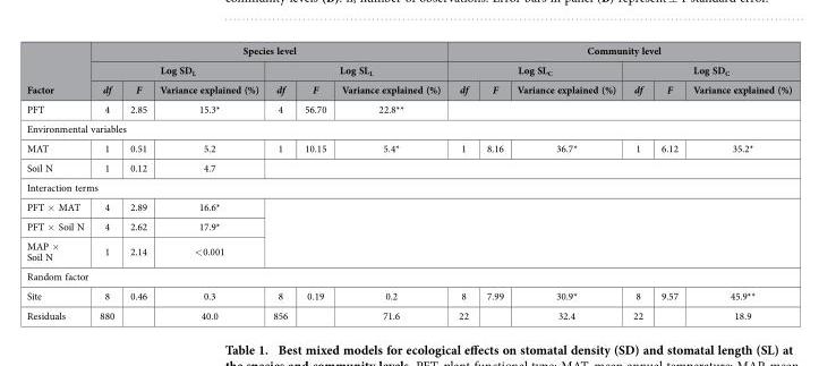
<table><thead><tr><td rowspan="3">Factor</td><td colspan="6">Species level</td><td colspan="6">Community level</td></tr><tr><td colspan="3">Log SD<sub>L</sub></td><td colspan="3">Log SL<sub>L</sub></td><td colspan="3">Log SL<sub>C</sub></td><td colspan="3">Log SD<sub>C</sub></td></tr><tr><td>df</td><td>F</td><td>Variance explained (%)</td><td>df</td><td>F</td><td>Variance explained (%)</td><td>df</td><td>F</td><td>Variance explained (%)</td><td>df</td><td>F</td><td>Variance explained (%)</td></tr></thead><tbody><tr><td>PFT</td><td>4</td><td>2.85</td><td>15.3*</td><td>4</td><td>56.70</td><td>22.8**</td><td colspan="6"></td></tr><tr><td colspan="13">Environmental variables</td></tr><tr><td>MAT</td><td>1</td><td>0.51</td><td>5.2</td><td>1</td><td>10.15</td><td>5.4*</td><td>1</td><td>8.16</td><td>36.7*</td><td>1</td><td>6.12</td><td>35.2*</td></tr><tr><td>Soil N</td><td>1</td><td>0.12</td><td>4.7</td><td colspan="9"></td></tr><tr><td colspan="13">Interaction terms</td></tr><tr><td>PFT × MAT</td><td>4</td><td>2.89</td><td>16.6*</td><td rowspan="3" colspan="9"></td></tr><tr><td>PFT × Soil N</td><td>4</td><td>2.62</td><td>17.9*</td></tr><tr><td>MAP × Soil N</td><td>1</td><td>2.14</td><td>&lt; 0.001</td></tr><tr><td colspan="13">Random factor</td></tr><tr><td>Site</td><td>8</td><td>0.46</td><td>0.3</td><td>8</td><td>0.19</td><td>0.2</td><td>8</td><td>7.99</td><td>30.9*</td><td>8</td><td>9.57</td><td>45.9**</td></tr><tr><td>Residuals</td><td>880</td><td></td><td>40.0</td><td>856</td><td></td><td>71.6</td><td>22</td><td></td><td>32.4</td><td>22</td><td></td><td>18.9</td></tr></tbody></table>